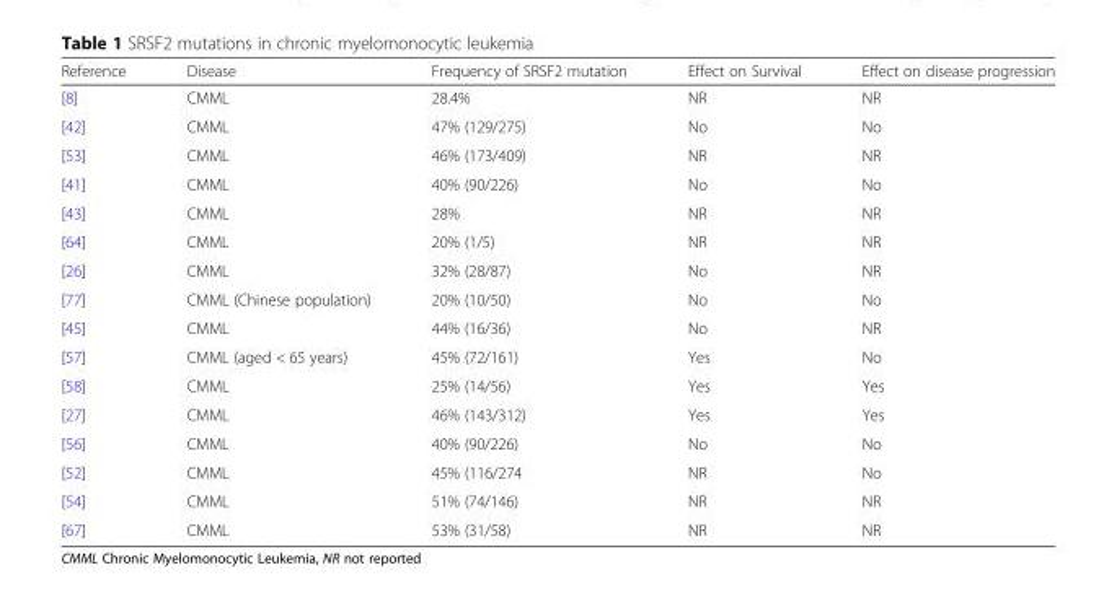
<table><thead><tr><td>Reference</td><td>Disease</td><td>Frequency of SRSF2 mutation</td><td>Effect on Survival</td><td>Effect on disease progression</td></tr></thead><tbody><tr><td>[8]</td><td>CMML</td><td>28.4%</td><td>NR</td><td>NR</td></tr><tr><td>[42]</td><td>CMML</td><td>47% (129/275)</td><td>No</td><td>No</td></tr><tr><td>[53]</td><td>CMML</td><td>46% (173/409)</td><td>NR</td><td>NR</td></tr><tr><td>[41]</td><td>CMML</td><td>40% (90/226)</td><td>No</td><td>No</td></tr><tr><td>[43]</td><td>CMML</td><td>28%</td><td>NR</td><td>NR</td></tr><tr><td>[64]</td><td>CMML</td><td>20% (1/5)</td><td>NR</td><td>NR</td></tr><tr><td>[26]</td><td>CMML</td><td>32% (28/87)</td><td>No</td><td>NR</td></tr><tr><td>[77]</td><td>CMML (Chinese population)</td><td>20% (10/50)</td><td>No</td><td>No</td></tr><tr><td>[45]</td><td>CMML</td><td>44% (16/36)</td><td>No</td><td>NR</td></tr><tr><td>[57]</td><td>CMML (aged &lt; 65 years)</td><td>45% (72/161)</td><td>Yes</td><td>No</td></tr><tr><td>[58]</td><td>CMML</td><td>25% (14/56)</td><td>Yes</td><td>Yes</td></tr><tr><td>[27]</td><td>CMML</td><td>46% (143/312)</td><td>Yes</td><td>Yes</td></tr><tr><td>[56]</td><td>CMML</td><td>40% (90/226)</td><td>No</td><td>No</td></tr><tr><td>[52]</td><td>CMML</td><td>45% (116/274</td><td>NR</td><td>No</td></tr><tr><td>[54]</td><td>CMML</td><td>51% (74/146)</td><td>NR</td><td>NR</td></tr><tr><td>[67]</td><td>CMML</td><td>53% (31/58)</td><td>NR</td><td>NR</td></tr></tbody></table>